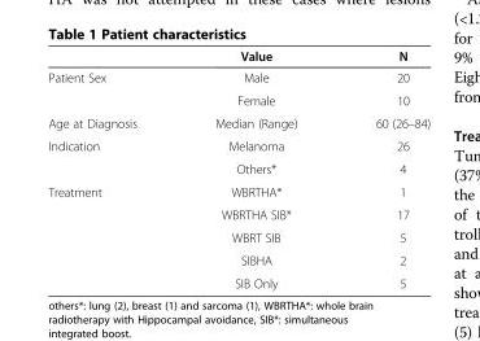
<table><thead><tr><td></td><td>Value</td><td>N</td></tr></thead><tbody><tr><td rowspan="2">Patient Sex</td><td>Male</td><td>20</td></tr><tr><td>Female</td><td>10</td></tr><tr><td>Age at Diagnosis</td><td>Median (Range)</td><td>60 (26–84)</td></tr><tr><td rowspan="2">Indication</td><td>Melanoma</td><td>26</td></tr><tr><td>Others*</td><td>4</td></tr><tr><td rowspan="5">Treatment</td><td>WBRTHA*</td><td>1</td></tr><tr><td>WBRTHA SIB*</td><td>17</td></tr><tr><td>WBRT SIB</td><td>5</td></tr><tr><td>SIBHA</td><td>2</td></tr><tr><td>SIB Only</td><td>5</td></tr></tbody></table>